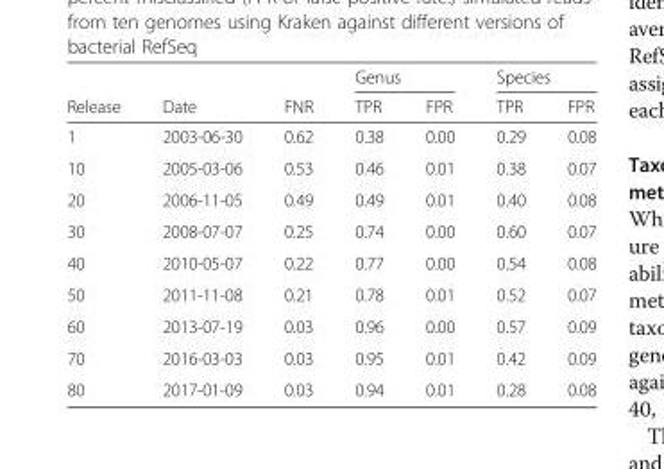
<table><thead><tr><td rowspan="2">Release</td><td rowspan="2">Date</td><td rowspan="2">FNR</td><td colspan="2">Genus</td><td colspan="2">Species</td></tr><tr><td>TPR</td><td>FPR</td><td>TPR</td><td>FPR</td></tr></thead><tbody><tr><td>1</td><td>2003-06-30</td><td>0.62</td><td>0.38</td><td>0.00</td><td>0.29</td><td>0.08</td></tr><tr><td>10</td><td>2005-03-06</td><td>0.53</td><td>0.46</td><td>0.01</td><td>0.38</td><td>0.07</td></tr><tr><td>20</td><td>2006-11-05</td><td>0.49</td><td>0.49</td><td>0.01</td><td>0.40</td><td>0.08</td></tr><tr><td>30</td><td>2008-07-07</td><td>0.25</td><td>0.74</td><td>0.00</td><td>0.60</td><td>0.07</td></tr><tr><td>40</td><td>2010-05-07</td><td>0.22</td><td>0.77</td><td>0.00</td><td>0.54</td><td>0.08</td></tr><tr><td>50</td><td>2011-11-08</td><td>0.21</td><td>0.78</td><td>0.01</td><td>0.52</td><td>0.07</td></tr><tr><td>60</td><td>2013-07-19</td><td>0.03</td><td>0.96</td><td>0.00</td><td>0.57</td><td>0.09</td></tr><tr><td>70</td><td>2016-03-03</td><td>0.03</td><td>0.95</td><td>0.01</td><td>0.42</td><td>0.09</td></tr><tr><td>80</td><td>2017-01-09</td><td>0.03</td><td>0.94</td><td>0.01</td><td>0.28</td><td>0.08</td></tr></tbody></table>